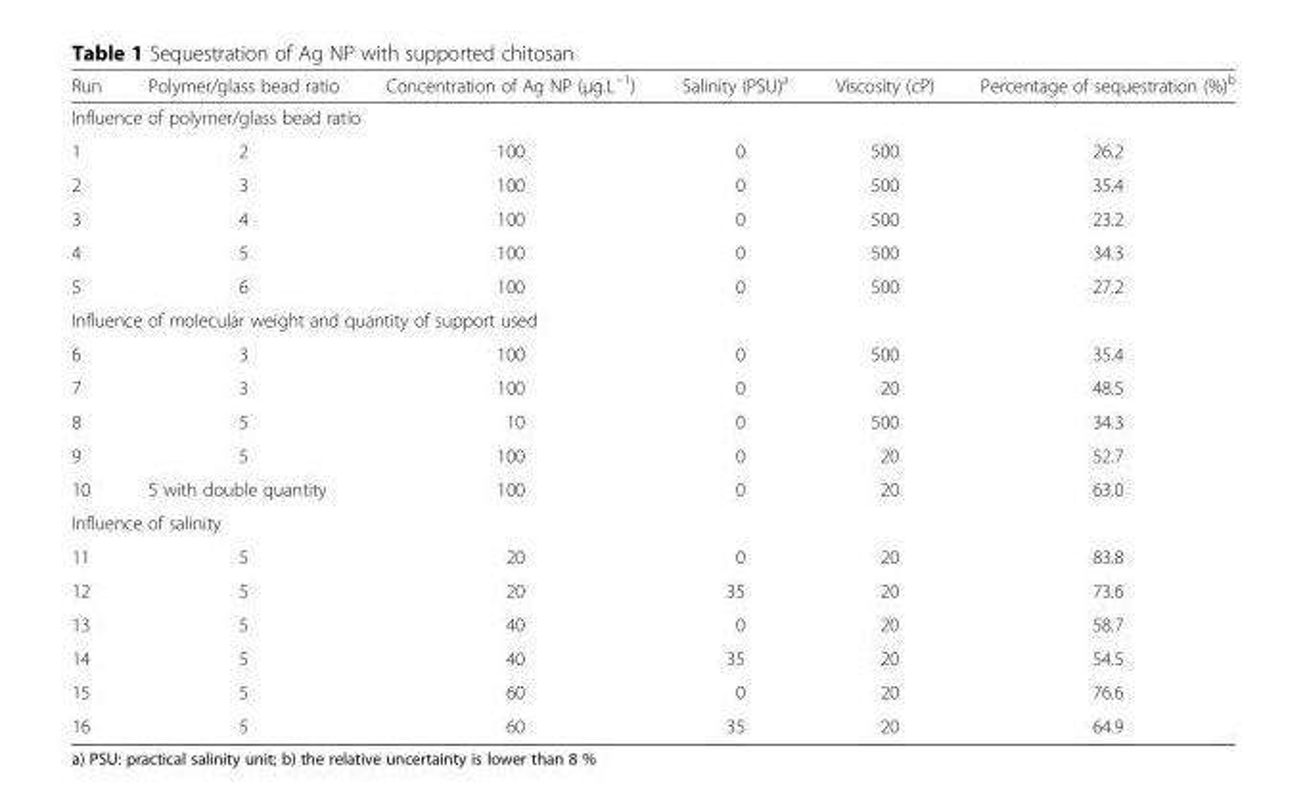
<table><thead><tr><td>Run</td><td>Polymer/glass bead ratio</td><td>Concentration of Ag NP (μg.L<sup>−1</sup>)</td><td>Salinity (PSU)<sup>a</sup></td><td>Viscosity (cP)</td><td>Percentage of sequestration (%)<sup>b</sup></td></tr></thead><tbody><tr><td colspan="6">Influence of polymer/glass bead ratio</td></tr><tr><td>1</td><td>2</td><td>100</td><td>0</td><td>500</td><td>26.2</td></tr><tr><td>2</td><td>3</td><td>100</td><td>0</td><td>500</td><td>35.4</td></tr><tr><td>3</td><td>4</td><td>100</td><td>0</td><td>500</td><td>23.2</td></tr><tr><td>4</td><td>5</td><td>100</td><td>0</td><td>500</td><td>34.3</td></tr><tr><td>5</td><td>6</td><td>100</td><td>0</td><td>500</td><td>27.2</td></tr><tr><td colspan="6">Influence of molecular weight and quantity of support used</td></tr><tr><td>6</td><td>3</td><td>100</td><td>0</td><td>500</td><td>35.4</td></tr><tr><td>7</td><td>3</td><td>100</td><td>0</td><td>20</td><td>48.5</td></tr><tr><td>8</td><td>5</td><td>10</td><td>0</td><td>500</td><td>34.3</td></tr><tr><td>9</td><td>5</td><td>100</td><td>0</td><td>20</td><td>52.7</td></tr><tr><td>10</td><td>5 with double quantity</td><td>100</td><td>0</td><td>20</td><td>63.0</td></tr><tr><td colspan="6">Influence of salinity</td></tr><tr><td>11</td><td>5</td><td>20</td><td>0</td><td>20</td><td>83.8</td></tr><tr><td>12</td><td>5</td><td>20</td><td>35</td><td>20</td><td>73.6</td></tr><tr><td>13</td><td>5</td><td>40</td><td>0</td><td>20</td><td>58.7</td></tr><tr><td>14</td><td>5</td><td>40</td><td>35</td><td>20</td><td>54.5</td></tr><tr><td>15</td><td>5</td><td>60</td><td>0</td><td>20</td><td>76.6</td></tr><tr><td>16</td><td>5</td><td>60</td><td>35</td><td>20</td><td>64.9</td></tr></tbody></table>